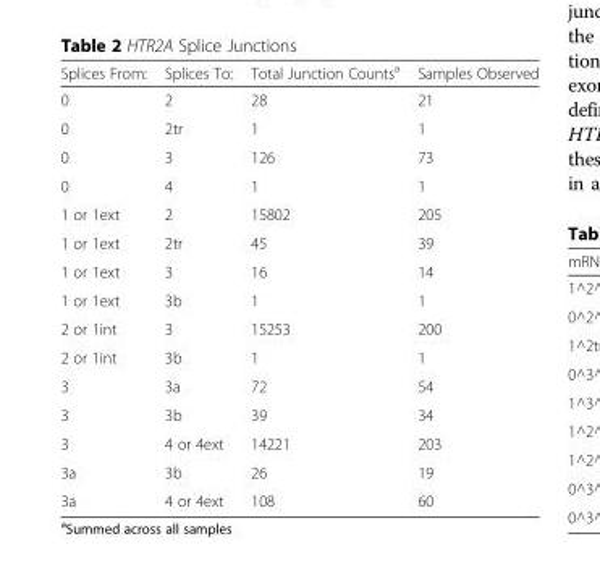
<table><thead><tr><td>Splices From:</td><td>Splices To:</td><td>Total Junction Counts<sup>a</sup></td><td>Samples Observed</td></tr></thead><tbody><tr><td>0</td><td>2</td><td>28</td><td>21</td></tr><tr><td>0</td><td>2tr</td><td>1</td><td>1</td></tr><tr><td>0</td><td>3</td><td>126</td><td>73</td></tr><tr><td>0</td><td>4</td><td>1</td><td>1</td></tr><tr><td>1 or 1ext</td><td>2</td><td>15802</td><td>205</td></tr><tr><td>1 or 1ext</td><td>2tr</td><td>45</td><td>39</td></tr><tr><td>1 or 1ext</td><td>3</td><td>16</td><td>14</td></tr><tr><td>1 or 1ext</td><td>3b</td><td>1</td><td>1</td></tr><tr><td>2 or 1int</td><td>3</td><td>15253</td><td>200</td></tr><tr><td>2 or 1int</td><td>3b</td><td>1</td><td>1</td></tr><tr><td>3</td><td>3a</td><td>72</td><td>54</td></tr><tr><td>3</td><td>3b</td><td>39</td><td>34</td></tr><tr><td>3</td><td>4 or 4ext</td><td>14221</td><td>203</td></tr><tr><td>3a</td><td>3b</td><td>26</td><td>19</td></tr><tr><td>3a</td><td>4 or 4ext</td><td>108</td><td>60</td></tr></tbody></table>